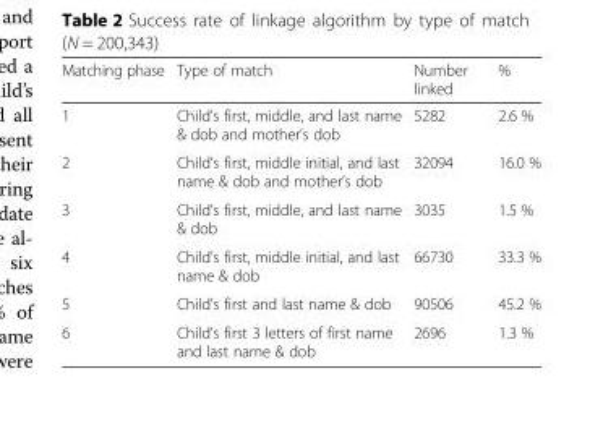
<table><thead><tr><td>Matching phase</td><td>Type of match</td><td>Number linked</td><td>%</td></tr></thead><tbody><tr><td>1</td><td>Child’s first, middle, and last name &amp; dob and mother’s dob</td><td>5282</td><td>2.6 %</td></tr><tr><td>2</td><td>Child’s first, middle initial, and last name &amp; dob and mother’s dob</td><td>32094</td><td>16.0 %</td></tr><tr><td>3</td><td>Child’s first, middle, and last name &amp; dob</td><td>3035</td><td>1.5 %</td></tr><tr><td>4</td><td>Child’s first, middle initial, and last name &amp; dob</td><td>66730</td><td>33.3 %</td></tr><tr><td>5</td><td>Child’s first and last name &amp; dob</td><td>90506</td><td>45.2 %</td></tr><tr><td>6</td><td>Child’s first 3 letters of first name and last name &amp; dob</td><td>2696</td><td>1.3 %</td></tr></tbody></table>